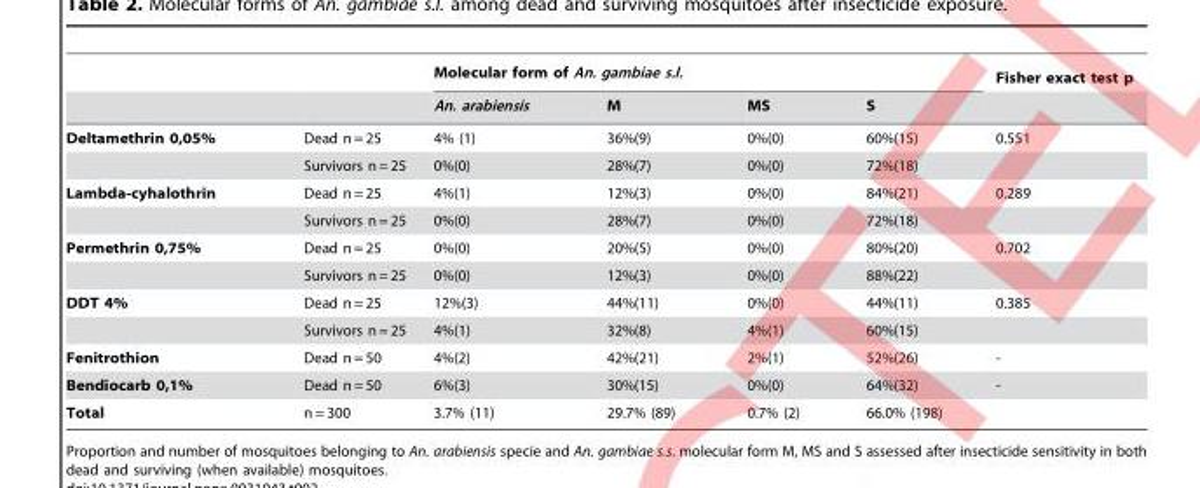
<table><thead><tr><td rowspan="2"></td><td rowspan="2"></td><td colspan="4">Molecular form of An. gambiae s.l.</td><td rowspan="2">Fisher exact test p</td></tr><tr><td>An. arabiensis</td><td>M</td><td>MS</td><td>S</td></tr></thead><tbody><tr><td rowspan="2">Deltamethrin 0,05%</td><td>Dead n = 25</td><td>4% (1)</td><td>36%(9)</td><td>0%(0)</td><td>60%(15)</td><td>0.551</td></tr><tr><td>Survivors n = 25</td><td>0%(0)</td><td>28%(7)</td><td>0%(0)</td><td>72%(18)</td><td></td></tr><tr><td rowspan="2">Lambda-cyhalothrin</td><td>Dead n = 25</td><td>4%(1)</td><td>12%(3)</td><td>0%(0)</td><td>84%(21)</td><td>0.289</td></tr><tr><td>Survivors n = 25</td><td>0%(0)</td><td>28%(7)</td><td>0%(0)</td><td>72%(18)</td><td></td></tr><tr><td rowspan="2">Permethrin 0,75%</td><td>Dead n = 25</td><td>0%(0)</td><td>20%(5)</td><td>0%(0)</td><td>80%(20)</td><td>0.702</td></tr><tr><td>Survivors n = 25</td><td>0%(0)</td><td>12%(3)</td><td>0%(0)</td><td>88%(22)</td><td></td></tr><tr><td rowspan="2">DDT 4%</td><td>Dead n = 25</td><td>12%(3)</td><td>44%(11)</td><td>0%(0)</td><td>44%(11)</td><td>0.385</td></tr><tr><td>Survivors n = 25</td><td>4%(1)</td><td>32%(8)</td><td>4%(1)</td><td>60%(15)</td><td></td></tr><tr><td>Fenitrothion</td><td>Dead n = 50</td><td>4%(2)</td><td>42%(21)</td><td>2%(1)</td><td>52%(26)</td><td>-</td></tr><tr><td>Bendiocarb 0,1%</td><td>Dead n = 50</td><td>6%(3)</td><td>30%(15)</td><td>0%(0)</td><td>64%(32)</td><td>-</td></tr><tr><td>Total</td><td>n = 300</td><td>3.7% (11)</td><td>29.7% (89)</td><td>0.7% (2)</td><td>66.0% (198)</td><td></td></tr></tbody></table>